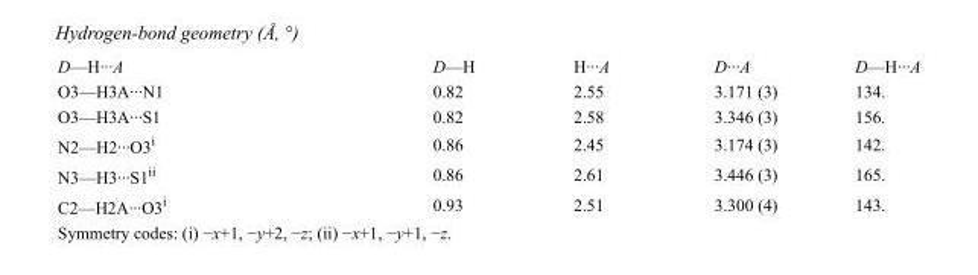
<table><tbody><tr><td>D—H···A</td><td>D—H</td><td>H···A</td><td>D···A</td><td>D—H···A</td></tr><tr><td>O3—H3A···N1</td><td>0.82</td><td>2.55</td><td>3.171 (3)</td><td>134.</td></tr><tr><td>O3—H3A···S1</td><td>0.82</td><td>2.58</td><td>3.346 (3)</td><td>156.</td></tr><tr><td>N2—H2···O3<sup>i</sup></td><td>0.86</td><td>2.45</td><td>3.174 (3)</td><td>142.</td></tr><tr><td>N3—H3···S1<sup>ii</sup></td><td>0.86</td><td>2.61</td><td>3.446 (3)</td><td>165.</td></tr><tr><td>C2—H2A···O3<sup>i</sup></td><td>0.93</td><td>2.51</td><td>3.300 (4)</td><td>143.</td></tr></tbody></table>